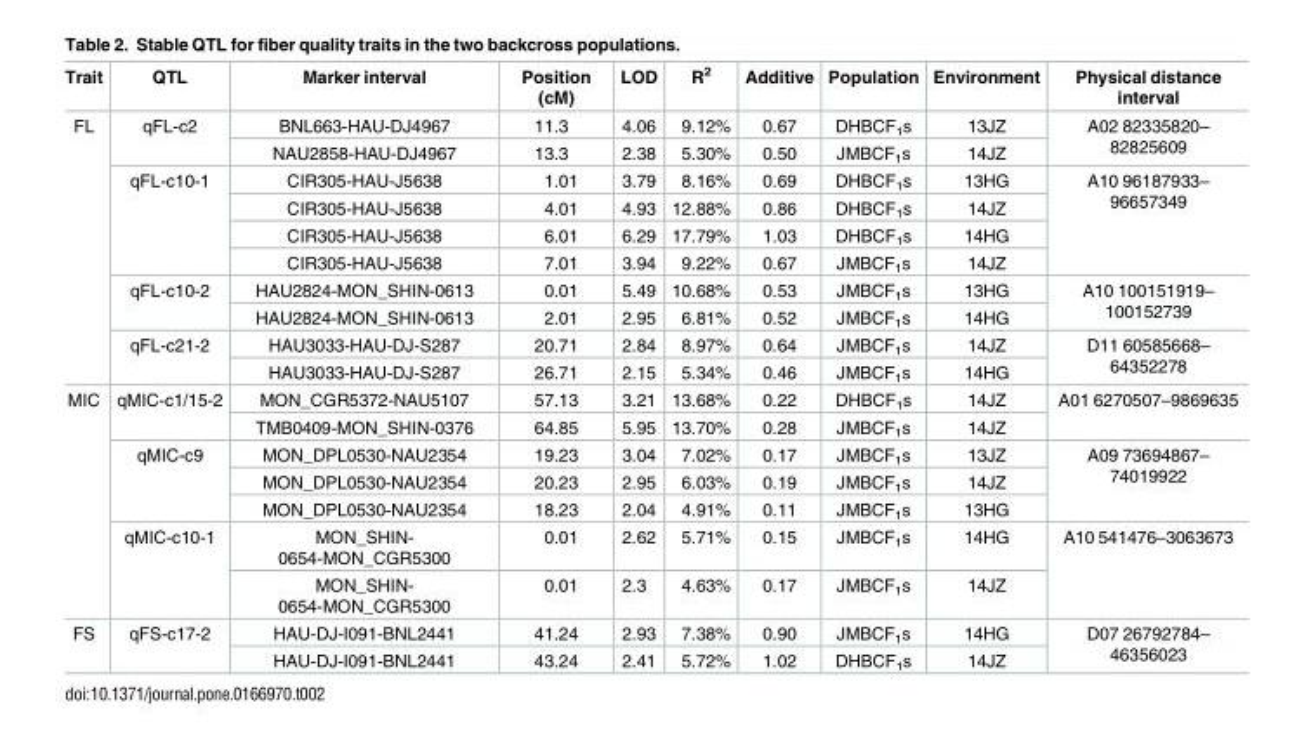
<table><thead><tr><td>Trait</td><td>QTL</td><td>Marker interval</td><td>Position (cM)</td><td>LOD</td><td>R<sup>2</sup></td><td>Additive</td><td>Population</td><td>Environment</td><td>Physical distance interval</td></tr></thead><tbody><tr><td rowspan="10">FL</td><td rowspan="2">qFL-c2</td><td>BNL663-HAU-DJ4967</td><td>11.3</td><td>4.06</td><td>9.12%</td><td>0.67</td><td>DHBCF<sub>1</sub>s</td><td>13JZ</td><td rowspan="2">A02 82335820– 82825609</td></tr><tr><td>NAU2858-HAU-DJ4967</td><td>13.3</td><td>2.38</td><td>5.30%</td><td>0.50</td><td>JMBCF<sub>1</sub>s</td><td>14JZ</td></tr><tr><td rowspan="4">qFL-c10-1</td><td>CIR305-HAU-J5638</td><td>1.01</td><td>3.79</td><td>8.16%</td><td>0.69</td><td>DHBCF<sub>1</sub>s</td><td>13HG</td><td rowspan="4">A10 96187933– 96657349</td></tr><tr><td>CIR305-HAU-J5638</td><td>4.01</td><td>4.93</td><td>12.88%</td><td>0.86</td><td>DHBCF<sub>1</sub>s</td><td>14JZ</td></tr><tr><td>CIR305-HAU-J5638</td><td>6.01</td><td>6.29</td><td>17.79%</td><td>1.03</td><td>DHBCF<sub>1</sub>s</td><td>14HG</td></tr><tr><td>CIR305-HAU-J5638</td><td>7.01</td><td>3.94</td><td>9.22%</td><td>0.67</td><td>JMBCF<sub>1</sub>s</td><td>14JZ</td></tr><tr><td rowspan="2">qFL-c10-2</td><td>HAU2824-MON_SHIN-0613</td><td>0.01</td><td>5.49</td><td>10.68%</td><td>0.53</td><td>JMBCF<sub>1</sub>s</td><td>13HG</td><td rowspan="2">A10 100151919– 100152739</td></tr><tr><td>HAU2824-MON_SHIN-0613</td><td>2.01</td><td>2.95</td><td>6.81%</td><td>0.52</td><td>JMBCF<sub>1</sub>s</td><td>14HG</td></tr><tr><td rowspan="2">qFL-c21-2</td><td>HAU3033-HAU-DJ-S287</td><td>20.71</td><td>2.84</td><td>8.97%</td><td>0.64</td><td>JMBCF<sub>1</sub>s</td><td>14JZ</td><td rowspan="2">D11 60585668– 64352278</td></tr><tr><td>HAU3033-HAU-DJ-S287</td><td>26.71</td><td>2.15</td><td>5.34%</td><td>0.46</td><td>JMBCF<sub>1</sub>s</td><td>14HG</td></tr><tr><td rowspan="7">MIC</td><td rowspan="2">qMIC-c1/15-2</td><td>MON_CGR5372-NAU5107</td><td>57.13</td><td>3.21</td><td>13.68%</td><td>0.22</td><td>DHBCF<sub>1</sub>s</td><td>14JZ</td><td rowspan="2">A01 6270507–9869635</td></tr><tr><td>TMB0409-MON_SHIN-0376</td><td>64.85</td><td>5.95</td><td>13.70%</td><td>0.28</td><td>JMBCF<sub>1</sub>s</td><td>14JZ</td></tr><tr><td rowspan="3">qMIC-c9</td><td>MON_DPL0530-NAU2354</td><td>19.23</td><td>3.04</td><td>7.02%</td><td>0.17</td><td>JMBCF<sub>1</sub>s</td><td>13JZ</td><td rowspan="3">A09 73694867– 74019922</td></tr><tr><td>MON_DPL0530-NAU2354</td><td>20.23</td><td>2.95</td><td>6.03%</td><td>0.19</td><td>JMBCF<sub>1</sub>s</td><td>14JZ</td></tr><tr><td>MON_DPL0530-NAU2354</td><td>18.23</td><td>2.04</td><td>4.91%</td><td>0.11</td><td>JMBCF<sub>1</sub>s</td><td>13HG</td></tr><tr><td rowspan="2">qMIC-c10-1</td><td>MON_SHIN- 0654-MON_CGR5300</td><td>0.01</td><td>2.62</td><td>5.71%</td><td>0.15</td><td>JMBCF<sub>1</sub>s</td><td>14HG</td><td rowspan="2">A10 541476–3063673</td></tr><tr><td>MON_SHIN- 0654-MON_CGR5300</td><td>0.01</td><td>2.3</td><td>4.63%</td><td>0.17</td><td>JMBCF<sub>1</sub>s</td><td>14JZ</td></tr><tr><td rowspan="2">FS</td><td rowspan="2">qFS-c17-2</td><td>HAU-DJ-I091-BNL2441</td><td>41.24</td><td>2.93</td><td>7.38%</td><td>0.90</td><td>JMBCF<sub>1</sub>s</td><td>14HG</td><td rowspan="2">D07 26792784– 46356023</td></tr><tr><td>HAU-DJ-I091-BNL2441</td><td>43.24</td><td>2.41</td><td>5.72%</td><td>1.02</td><td>DHBCF<sub>1</sub>s</td><td>14JZ</td></tr></tbody></table>